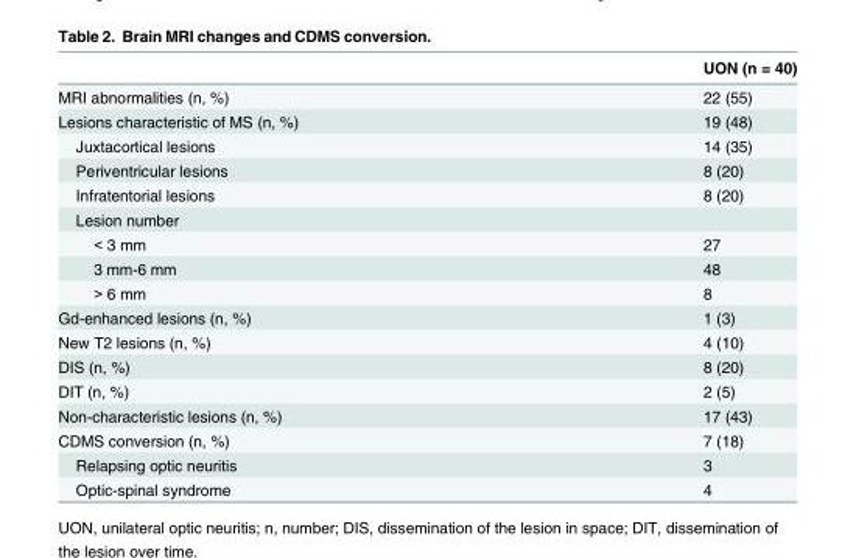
<table><thead><tr><td></td><td>UON (n = 40)</td></tr></thead><tbody><tr><td>MRI abnormalities (n, %)</td><td>22 (55)</td></tr><tr><td>Lesions characteristic of MS (n, %)</td><td>19 (48)</td></tr><tr><td>Juxtacortical lesions</td><td>14 (35)</td></tr><tr><td>Periventricular lesions</td><td>8 (20)</td></tr><tr><td>Infratentorial lesions</td><td>8 (20)</td></tr><tr><td colspan="2">Lesion number</td></tr><tr><td>&lt; 3 mm</td><td>27</td></tr><tr><td>3 mm-6 mm</td><td>48</td></tr><tr><td>&gt; 6 mm</td><td>8</td></tr><tr><td>Gd-enhanced lesions (n, %)</td><td>1 (3)</td></tr><tr><td>New T2 lesions (n, %)</td><td>4 (10)</td></tr><tr><td>DIS (n, %)</td><td>8 (20)</td></tr><tr><td>DIT (n, %)</td><td>2 (5)</td></tr><tr><td>Non-characteristic lesions (n, %)</td><td>17 (43)</td></tr><tr><td>CDMS conversion (n, %)</td><td>7 (18)</td></tr><tr><td>Relapsing optic neuritis</td><td>3</td></tr><tr><td>Optic-spinal syndrome</td><td>4</td></tr></tbody></table>